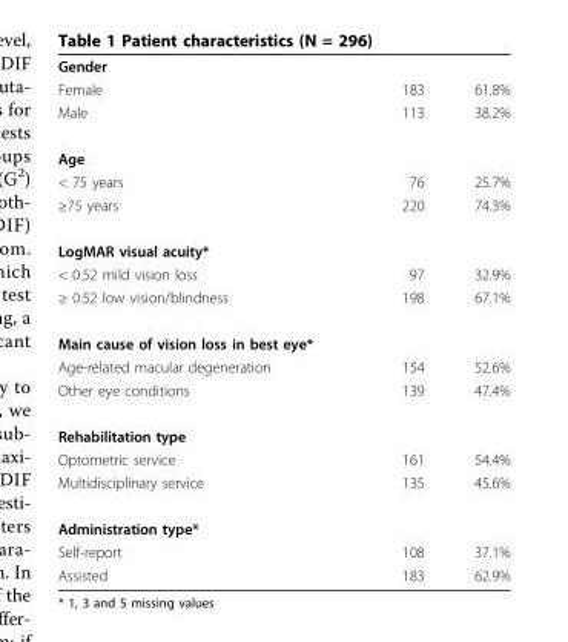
<table><tbody><tr><td colspan="3">Gender</td></tr><tr><td>Female</td><td>183</td><td>61.8%</td></tr><tr><td>Male</td><td>113</td><td>38.2%</td></tr><tr><td colspan="3">Age</td></tr><tr><td>&lt; 75 years</td><td>76</td><td>25.7%</td></tr><tr><td>≥75 years</td><td>220</td><td>74.3%</td></tr><tr><td colspan="3">LogMAR visual acuity*</td></tr><tr><td>&lt; 0.52 mild vision loss</td><td>97</td><td>32.9%</td></tr><tr><td>≥ 0.52 low vision/blindness</td><td>198</td><td>67.1%</td></tr><tr><td colspan="3">Main cause of vision loss in best eye*</td></tr><tr><td>Age-related macular degeneration</td><td>154</td><td>52.6%</td></tr><tr><td>Other eye conditions</td><td>139</td><td>47.4%</td></tr><tr><td colspan="3">Rehabilitation type</td></tr><tr><td>Optometric service</td><td>161</td><td>54.4%</td></tr><tr><td>Multidisciplinary service</td><td>135</td><td>45.6%</td></tr><tr><td colspan="3">Administration type*</td></tr><tr><td>Self-report</td><td>108</td><td>37.1%</td></tr><tr><td>Assisted</td><td>183</td><td>62.9%</td></tr></tbody></table>